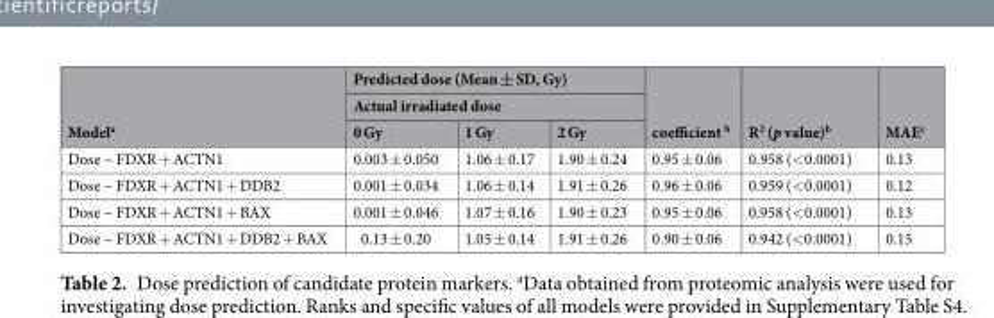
<table><thead><tr><td rowspan="3">Model<sup>a</sup></td><td rowspan="2" colspan="3">Predicted dose (Mean ± SD, Gy) Actual irradiated dose</td><td rowspan="3">coefficient <sup>b</sup></td><td rowspan="3">R<sup>2</sup> (p value)<sup>b</sup></td><td rowspan="3">MAE<sup>c</sup></td></tr><tr></tr><tr><td>0 Gy</td><td>1 Gy</td><td>2 Gy</td></tr></thead><tbody><tr><td>Dose ~ FDXR + ACTN1</td><td>0.003 ± 0.050</td><td>1.06 ± 0.17</td><td>1.90 ± 0.24</td><td>0.95 ± 0.06</td><td>0.958 (&lt;0.0001)</td><td>0.13</td></tr><tr><td>Dose ~ FDXR + ACTN1 + DDB2</td><td>0.001 ± 0.034</td><td>1.06 ± 0.14</td><td>1.91 ± 0.26</td><td>0.96 ± 0.06</td><td>0.959 (&lt;0.0001)</td><td>0.12</td></tr><tr><td>Dose ~ FDXR + ACTN1 + BAX</td><td>0.001 ± 0.046</td><td>1.07 ± 0.16</td><td>1.90 ± 0.23</td><td>0.95 ± 0.06</td><td>0.958 (&lt;0.0001)</td><td>0.13</td></tr><tr><td>Dose ~ FDXR + ACTN1 + DDB2 + BAX</td><td>0.13 ± 0.20</td><td>1.05 ± 0.14</td><td>1.91 ± 0.26</td><td>0.90 ± 0.06</td><td>0.942 (&lt;0.0001)</td><td>0.15</td></tr></tbody></table>